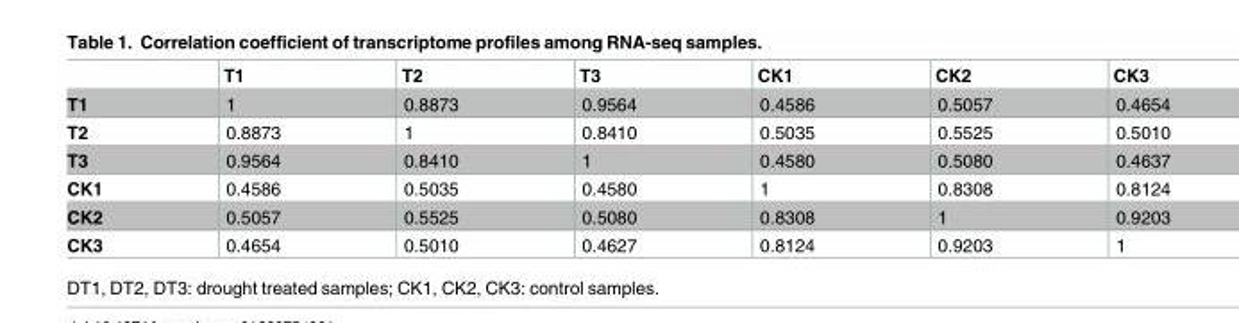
<table><thead><tr><td></td><td>T1</td><td>T2</td><td>T3</td><td>CK1</td><td>CK2</td><td>CK3</td></tr></thead><tbody><tr><td>T1</td><td>1</td><td>0.8873</td><td>0.9564</td><td>0.4586</td><td>0.5057</td><td>0.4654</td></tr><tr><td>T2</td><td>0.8873</td><td>1</td><td>0.8410</td><td>0.5035</td><td>0.5525</td><td>0.5010</td></tr><tr><td>T3</td><td>0.9564</td><td>0.8410</td><td>1</td><td>0.4580</td><td>0.5080</td><td>0.4637</td></tr><tr><td>CK1</td><td>0.4586</td><td>0.5035</td><td>0.4580</td><td>1</td><td>0.8308</td><td>0.8124</td></tr><tr><td>CK2</td><td>0.5057</td><td>0.5525</td><td>0.5080</td><td>0.8308</td><td>1</td><td>0.9203</td></tr><tr><td>CK3</td><td>0.4654</td><td>0.5010</td><td>0.4627</td><td>0.8124</td><td>0.9203</td><td>1</td></tr></tbody></table>